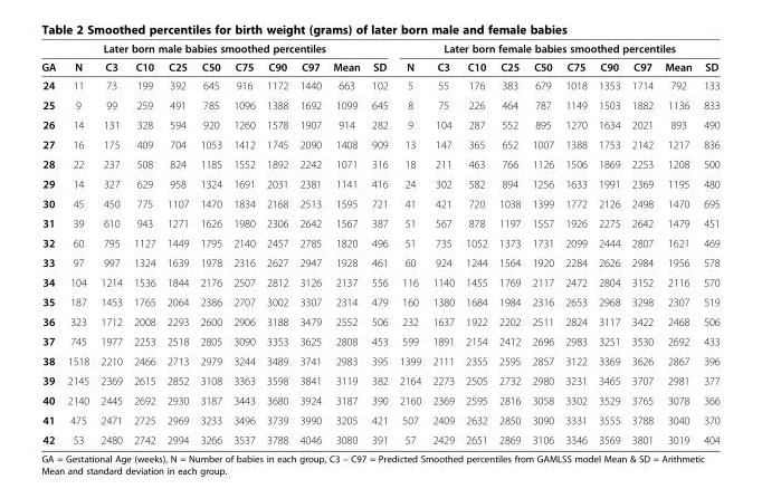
<table><thead><tr><td colspan="11">Later born male babies smoothed percentiles</td><td colspan="10">Later born female babies smoothed percentiles</td></tr><tr><td>GA</td><td>N</td><td>C3</td><td>C10</td><td>C25</td><td>C50</td><td>C75</td><td>C90</td><td>C97</td><td>Mean</td><td>SD</td><td>N</td><td>C3</td><td>C10</td><td>C25</td><td>C50</td><td>C75</td><td>C90</td><td>C97</td><td>Mean</td><td>SD</td></tr></thead><tbody><tr><td>24</td><td>11</td><td>73</td><td>199</td><td>392</td><td>645</td><td>916</td><td>1172</td><td>1440</td><td>663</td><td>102</td><td>5</td><td>55</td><td>176</td><td>383</td><td>679</td><td>1018</td><td>1353</td><td>1714</td><td>792</td><td>133</td></tr><tr><td>25</td><td>9</td><td>99</td><td>259</td><td>491</td><td>785</td><td>1096</td><td>1388</td><td>1692</td><td>1099</td><td>645</td><td>8</td><td>75</td><td>226</td><td>464</td><td>787</td><td>1149</td><td>1503</td><td>1882</td><td>1136</td><td>833</td></tr><tr><td>26</td><td>14</td><td>131</td><td>328</td><td>594</td><td>920</td><td>1260</td><td>1578</td><td>1907</td><td>914</td><td>282</td><td>9</td><td>104</td><td>287</td><td>552</td><td>895</td><td>1270</td><td>1634</td><td>2021</td><td>893</td><td>490</td></tr><tr><td>27</td><td>16</td><td>175</td><td>409</td><td>704</td><td>1053</td><td>1412</td><td>1745</td><td>2090</td><td>1408</td><td>909</td><td>13</td><td>147</td><td>365</td><td>652</td><td>1007</td><td>1388</td><td>1753</td><td>2142</td><td>1217</td><td>836</td></tr><tr><td>28</td><td>22</td><td>237</td><td>508</td><td>824</td><td>1185</td><td>1552</td><td>1892</td><td>2242</td><td>1071</td><td>316</td><td>18</td><td>211</td><td>463</td><td>766</td><td>1126</td><td>1506</td><td>1869</td><td>2253</td><td>1208</td><td>500</td></tr><tr><td>29</td><td>14</td><td>327</td><td>629</td><td>958</td><td>1324</td><td>1691</td><td>2031</td><td>2381</td><td>1141</td><td>416</td><td>24</td><td>302</td><td>582</td><td>894</td><td>1256</td><td>1633</td><td>1991</td><td>2369</td><td>1195</td><td>480</td></tr><tr><td>30</td><td>45</td><td>450</td><td>775</td><td>1107</td><td>1470</td><td>1834</td><td>2168</td><td>2513</td><td>1595</td><td>721</td><td>41</td><td>421</td><td>720</td><td>1038</td><td>1399</td><td>1772</td><td>2126</td><td>2498</td><td>1470</td><td>695</td></tr><tr><td>31</td><td>39</td><td>610</td><td>943</td><td>1271</td><td>1626</td><td>1980</td><td>2306</td><td>2642</td><td>1567</td><td>387</td><td>51</td><td>567</td><td>878</td><td>1197</td><td>1557</td><td>1926</td><td>2275</td><td>2642</td><td>1479</td><td>451</td></tr><tr><td>32</td><td>60</td><td>795</td><td>1127</td><td>1449</td><td>1795</td><td>2140</td><td>2457</td><td>2785</td><td>1820</td><td>496</td><td>51</td><td>735</td><td>1052</td><td>1373</td><td>1731</td><td>2099</td><td>2444</td><td>2807</td><td>1621</td><td>469</td></tr><tr><td>33</td><td>97</td><td>997</td><td>1324</td><td>1639</td><td>1978</td><td>2316</td><td>2627</td><td>2947</td><td>1928</td><td>461</td><td>60</td><td>924</td><td>1244</td><td>1564</td><td>1920</td><td>2284</td><td>2626</td><td>2984</td><td>1956</td><td>578</td></tr><tr><td>34</td><td>104</td><td>1214</td><td>1536</td><td>1844</td><td>2176</td><td>2507</td><td>2812</td><td>3126</td><td>2137</td><td>556</td><td>116</td><td>1140</td><td>1455</td><td>1769</td><td>2117</td><td>2472</td><td>2804</td><td>3152</td><td>2116</td><td>570</td></tr><tr><td>35</td><td>187</td><td>1453</td><td>1765</td><td>2064</td><td>2386</td><td>2707</td><td>3002</td><td>3307</td><td>2314</td><td>479</td><td>160</td><td>1380</td><td>1684</td><td>1984</td><td>2316</td><td>2653</td><td>2968</td><td>3298</td><td>2307</td><td>519</td></tr><tr><td>36</td><td>323</td><td>1712</td><td>2008</td><td>2293</td><td>2600</td><td>2906</td><td>3188</td><td>3479</td><td>2552</td><td>506</td><td>232</td><td>1637</td><td>1922</td><td>2202</td><td>2511</td><td>2824</td><td>3117</td><td>3422</td><td>2468</td><td>506</td></tr><tr><td>37</td><td>745</td><td>1977</td><td>2253</td><td>2518</td><td>2805</td><td>3090</td><td>3353</td><td>3625</td><td>2808</td><td>453</td><td>599</td><td>1891</td><td>2154</td><td>2412</td><td>2696</td><td>2983</td><td>3251</td><td>3530</td><td>2692</td><td>433</td></tr><tr><td>38</td><td>1518</td><td>2210</td><td>2466</td><td>2713</td><td>2979</td><td>3244</td><td>3489</td><td>3741</td><td>2983</td><td>395</td><td>1399</td><td>2111</td><td>2355</td><td>2595</td><td>2857</td><td>3122</td><td>3369</td><td>3626</td><td>2867</td><td>396</td></tr><tr><td>39</td><td>2145</td><td>2369</td><td>2615</td><td>2852</td><td>3108</td><td>3363</td><td>3598</td><td>3841</td><td>3119</td><td>382</td><td>2164</td><td>2273</td><td>2505</td><td>2732</td><td>2980</td><td>3231</td><td>3465</td><td>3707</td><td>2981</td><td>377</td></tr><tr><td>40</td><td>2140</td><td>2445</td><td>2692</td><td>2930</td><td>3187</td><td>3443</td><td>3680</td><td>3924</td><td>3187</td><td>390</td><td>2160</td><td>2369</td><td>2595</td><td>2816</td><td>3058</td><td>3302</td><td>3529</td><td>3765</td><td>3078</td><td>366</td></tr><tr><td>41</td><td>475</td><td>2471</td><td>2725</td><td>2969</td><td>3233</td><td>3496</td><td>3739</td><td>3990</td><td>3205</td><td>421</td><td>507</td><td>2409</td><td>2632</td><td>2850</td><td>3090</td><td>3331</td><td>3555</td><td>3788</td><td>3040</td><td>370</td></tr><tr><td>42</td><td>53</td><td>2480</td><td>2742</td><td>2994</td><td>3266</td><td>3537</td><td>3788</td><td>4046</td><td>3080</td><td>391</td><td>57</td><td>2429</td><td>2651</td><td>2869</td><td>3106</td><td>3346</td><td>3569</td><td>3801</td><td>3019</td><td>404</td></tr></tbody></table>